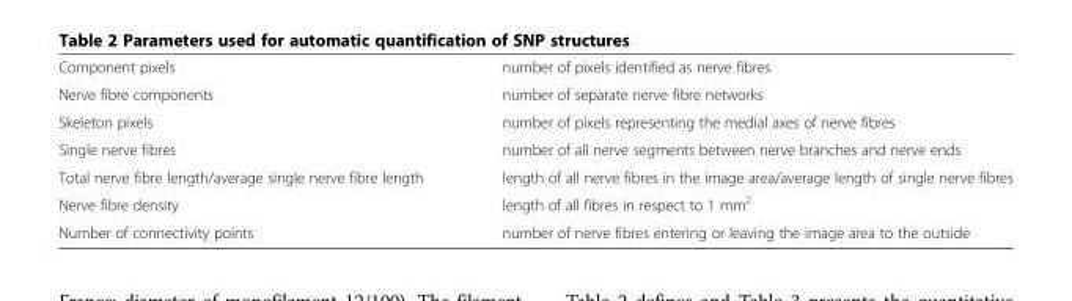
<table><tbody><tr><td>Component pixels</td><td>number of pixels identified as nerve fibres</td></tr><tr><td>Nerve fibre components</td><td>number of separate nerve fibre networks</td></tr><tr><td>Skeleton pixels</td><td>number of pixels representing the medial axes of nerve fibres</td></tr><tr><td>Single nerve fibres</td><td>number of all nerve segments between nerve branches and nerve ends</td></tr><tr><td>Total nerve fibre length/average single nerve fibre length</td><td>length of all nerve fibres in the image area/average length of single nerve fibres</td></tr><tr><td>Nerve fibre density</td><td>length of all fibres in respect to 1 mm<sup>2</sup></td></tr><tr><td>Number of connectivity points</td><td>number of nerve fibres entering or leaving the image area to the outside</td></tr></tbody></table>